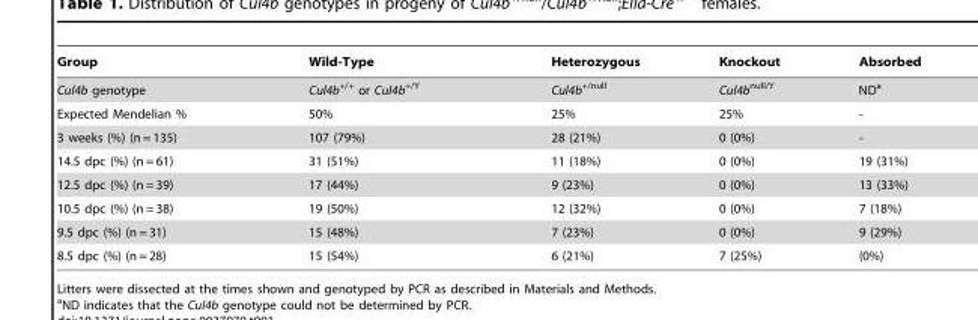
<table><thead><tr><td>Group</td><td>Wild-Type</td><td>Heterozygous</td><td>Knockout</td><td>Absorbed</td></tr></thead><tbody><tr><td>Cul4b genotype</td><td>Cul4b<sup>+/+</sup> or Cul4b<sup>+/Y</sup></td><td>Cul4b<sup>+/null</sup></td><td>Cul4b<sup>null/Y</sup></td><td>ND<sup>a</sup></td></tr><tr><td>Expected Mendelian %</td><td>50%</td><td>25%</td><td>25%</td><td>-</td></tr><tr><td>3 weeks (%) (n = 135)</td><td>107 (79%)</td><td>28 (21%)</td><td>0 (0%)</td><td>-</td></tr><tr><td>14.5 dpc (%) (n = 61)</td><td>31 (51%)</td><td>11 (18%)</td><td>0 (0%)</td><td>19 (31%)</td></tr><tr><td>12.5 dpc (%) (n = 39)</td><td>17 (44%)</td><td>9 (23%)</td><td>0 (0%)</td><td>13 (33%)</td></tr><tr><td>10.5 dpc (%) (n = 38)</td><td>19 (50%)</td><td>12 (32%)</td><td>0 (0%)</td><td>7 (18%)</td></tr><tr><td>9.5 dpc (%) (n = 31)</td><td>15 (48%)</td><td>7 (23%)</td><td>0 (0%)</td><td>9 (29%)</td></tr><tr><td>8.5 dpc (%) (n = 28)</td><td>15 (54%)</td><td>6 (21%)</td><td>7 (25%)</td><td>(0%)</td></tr></tbody></table>